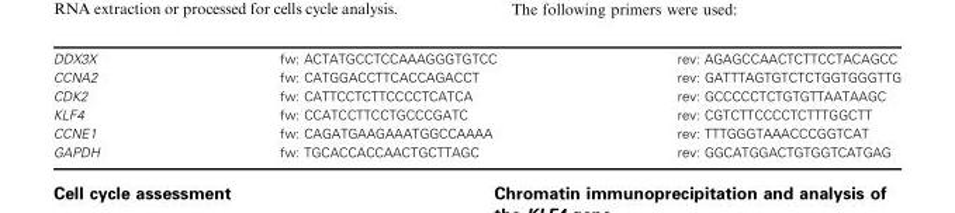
<table><tbody><tr><td>DDX3X</td><td>fw: ACTATGCCTCCAAAGGGTGTCC</td><td>rev: AGAGCCAACTCTTCCTACAGCC</td></tr><tr><td>CCNA2</td><td>fw: CATGGACCTTCACCAGACCT</td><td>rev: GATTTAGTGTCTCTGGTGGGTTG</td></tr><tr><td>CDK2</td><td>fw: CATTCCTCTTCCCCTCATCA</td><td>rev: GCCCCCTCTGTGTTAATAAGC</td></tr><tr><td>KLF4</td><td>fw: CCATCCTTCCTGCCCGATC</td><td>rev: CGTCTTCCCCTCTTTGGCTT</td></tr><tr><td>CCNE1</td><td>fw: CAGATGAAGAAATGGCCAAAA</td><td>rev: TTTGGGTAAACCCGGTCAT</td></tr><tr><td>GAPDH</td><td>fw: TGCACCACCAACTGCTTAGC</td><td>rev: GGCATGGACTGTGGTCATGAG</td></tr></tbody></table>